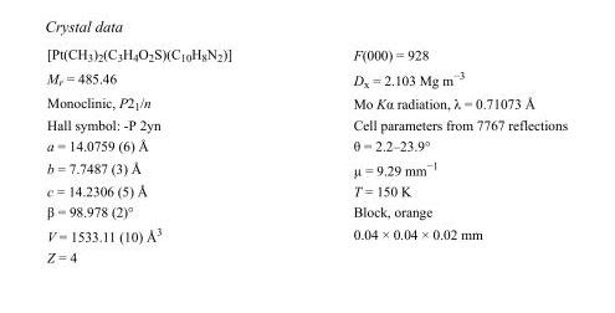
<table><tbody><tr><td>[Pt(CH<sub>3</sub>)<sub>2</sub>(C<sub>3</sub>H<sub>4</sub>O<sub>2</sub>S)(C<sub>10</sub>H<sub>8</sub>N<sub>2</sub>)]</td><td>F(000) = 928</td></tr><tr><td>M<sub>r</sub> = 485.46</td><td>D<sub>x</sub> = 2.103 Mg m<sup>−3</sup></td></tr><tr><td>Monoclinic, P2<sub>1</sub>/n</td><td>Mo Kα radiation, λ = 0.71073 Å</td></tr><tr><td>Hall symbol: -P 2yn</td><td>Cell parameters from 7767 reflections</td></tr><tr><td>a = 14.0759 (6) Å</td><td>θ = 2.2–23.9°</td></tr><tr><td>b = 7.7487 (3) Å</td><td>µ = 9.29 mm<sup>−1</sup></td></tr><tr><td>c = 14.2306 (5) Å</td><td>T = 150 K</td></tr><tr><td>β = 98.978 (2)°</td><td>Block, orange</td></tr><tr><td>V = 1533.11 (10) Å<sup>3</sup></td><td>0.04 × 0.04 × 0.02 mm</td></tr><tr><td>Z = 4</td><td></td></tr></tbody></table>